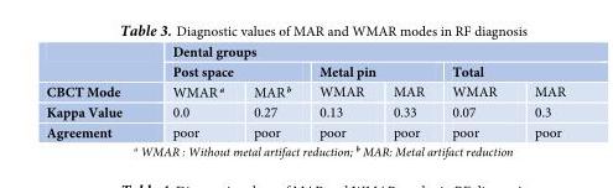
<table><thead><tr><td rowspan="3">CBCT Mode</td><td colspan="6">Dental groups</td></tr><tr><td colspan="2">Post space</td><td colspan="2">Metal pin</td><td colspan="2">Total</td></tr><tr><td>WMAR <sup>a</sup></td><td>MAR <sup>b</sup></td><td>WMAR</td><td>MAR</td><td>WMAR</td><td>MAR</td></tr></thead><tbody><tr><td>Kappa Value</td><td>0.0</td><td>0.27</td><td>0.13</td><td>0.33</td><td>0.07</td><td>0.3</td></tr><tr><td>Agreement</td><td>poor</td><td>poor</td><td>poor</td><td>poor</td><td>poor</td><td>poor</td></tr></tbody></table>